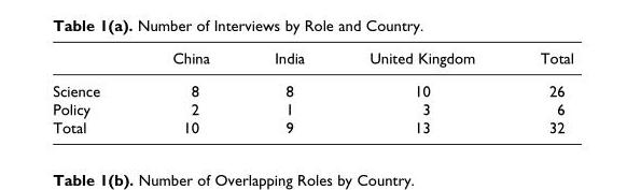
<table><thead><tr><td></td><td>China</td><td>India</td><td>United Kingdom</td><td>Total</td></tr></thead><tbody><tr><td>Science</td><td>8</td><td>8</td><td>10</td><td>26</td></tr><tr><td>Policy</td><td>2</td><td>1</td><td>3</td><td>6</td></tr><tr><td>Total</td><td>10</td><td>9</td><td>13</td><td>32</td></tr></tbody></table>